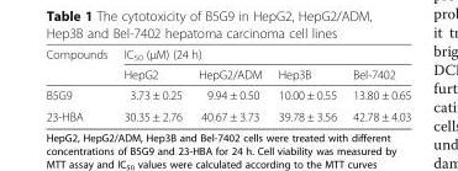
<table><thead><tr><td rowspan="2">Compounds</td><td colspan="4">IC<sub>50</sub> (μM) (24 h)</td></tr><tr><td>HepG2</td><td>HepG2/ADM</td><td>Hep3B</td><td>Bel-7402</td></tr></thead><tbody><tr><td>B5G9</td><td>3.73 ± 0.25</td><td>9.94 ± 0.50</td><td>10.00 ± 0.55</td><td>13.80 ± 0.65</td></tr><tr><td>23-HBA</td><td>30.35 ± 2.76</td><td>40.67 ± 3.73</td><td>39.78 ± 3.56</td><td>42.78 ± 4.03</td></tr></tbody></table>